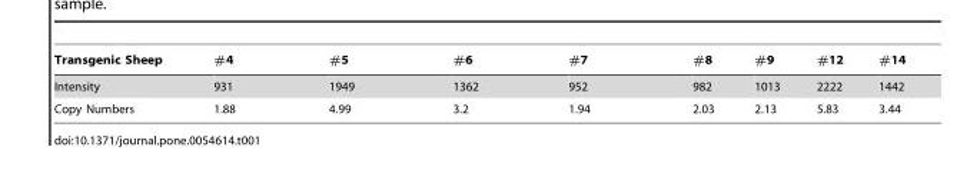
<table><thead><tr><td>Transgenic Sheep</td><td>#4</td><td>#5</td><td>#6</td><td>#7</td><td>#8</td><td>#9</td><td>#12</td><td>#14</td></tr></thead><tbody><tr><td>Intensity</td><td>931</td><td>1949</td><td>1362</td><td>952</td><td>982</td><td>1013</td><td>2222</td><td>1442</td></tr><tr><td>Copy Numbers</td><td>1.88</td><td>4.99</td><td>3.2</td><td>1.94</td><td>2.03</td><td>2.13</td><td>5.83</td><td>3.44</td></tr></tbody></table>